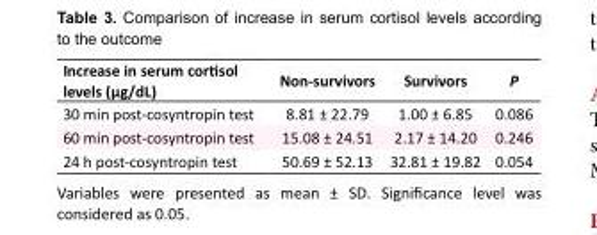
<table><tbody><tr><td>Increase in serum cortisol levels (µg/dL)</td><td>Non-survivors</td><td>Survivors</td><td>P</td></tr><tr><td>30 min post-cosyntropin test</td><td>8.81 ± 22.79</td><td>1.00 ± 6.85</td><td>0.086</td></tr><tr><td>60 min post-cosyntropin test</td><td>15.08 ± 24.51</td><td>2.17 ± 14.20</td><td>0.246</td></tr><tr><td>24 h post-cosyntropin test</td><td>50.69 ± 52.13</td><td>32.81 ± 19.82</td><td>0.054</td></tr></tbody></table>